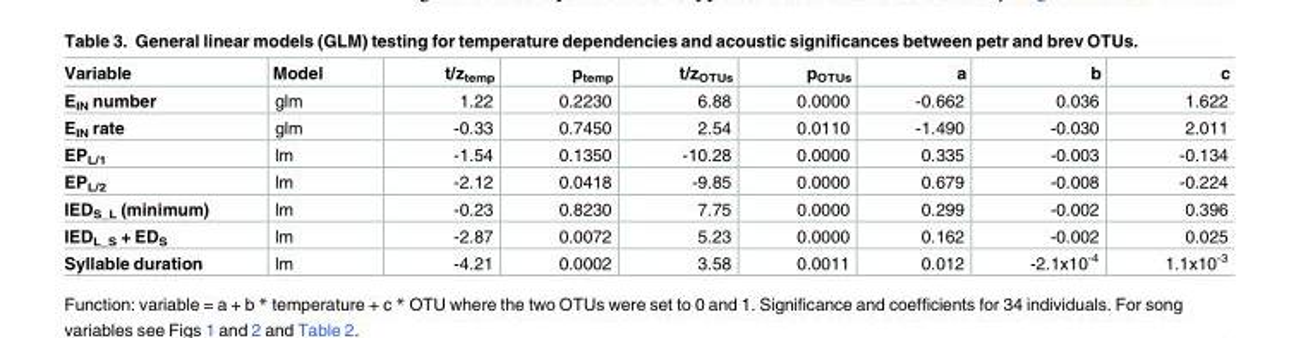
<table><thead><tr><td>Variable</td><td>Model</td><td>t/z<sub>temp</sub></td><td>p<sub>temp</sub></td><td>t/z<sub>OTUs</sub></td><td>p<sub>OTUs</sub></td><td>a</td><td>b</td><td>c</td></tr></thead><tbody><tr><td>E<sub>IN</sub> number</td><td>glm</td><td>1.22</td><td>0.2230</td><td>6.88</td><td>0.0000</td><td>-0.662</td><td>0.036</td><td>1.622</td></tr><tr><td>E<sub>IN</sub> rate</td><td>glm</td><td>-0.33</td><td>0.7450</td><td>2.54</td><td>0.0110</td><td>-1.490</td><td>-0.030</td><td>2.011</td></tr><tr><td>EP<sub>L/1</sub></td><td>lm</td><td>-1.54</td><td>0.1350</td><td>-10.28</td><td>0.0000</td><td>0.335</td><td>-0.003</td><td>-0.134</td></tr><tr><td>EP<sub>L/2</sub></td><td>lm</td><td>-2.12</td><td>0.0418</td><td>-9.85</td><td>0.0000</td><td>0.679</td><td>-0.008</td><td>-0.224</td></tr><tr><td>IED<sub>S_L</sub> (minimum)</td><td>lm</td><td>-0.23</td><td>0.8230</td><td>7.75</td><td>0.0000</td><td>0.299</td><td>-0.002</td><td>0.396</td></tr><tr><td>IED<sub>L_S</sub> + ED<sub>S</sub></td><td>lm</td><td>-2.87</td><td>0.0072</td><td>5.23</td><td>0.0000</td><td>0.162</td><td>-0.002</td><td>0.025</td></tr><tr><td>Syllable duration</td><td>lm</td><td>-4.21</td><td>0.0002</td><td>3.58</td><td>0.0011</td><td>0.012</td><td>-2.1x10<sup>-4</sup></td><td>1.1x10<sup>-3</sup></td></tr></tbody></table>